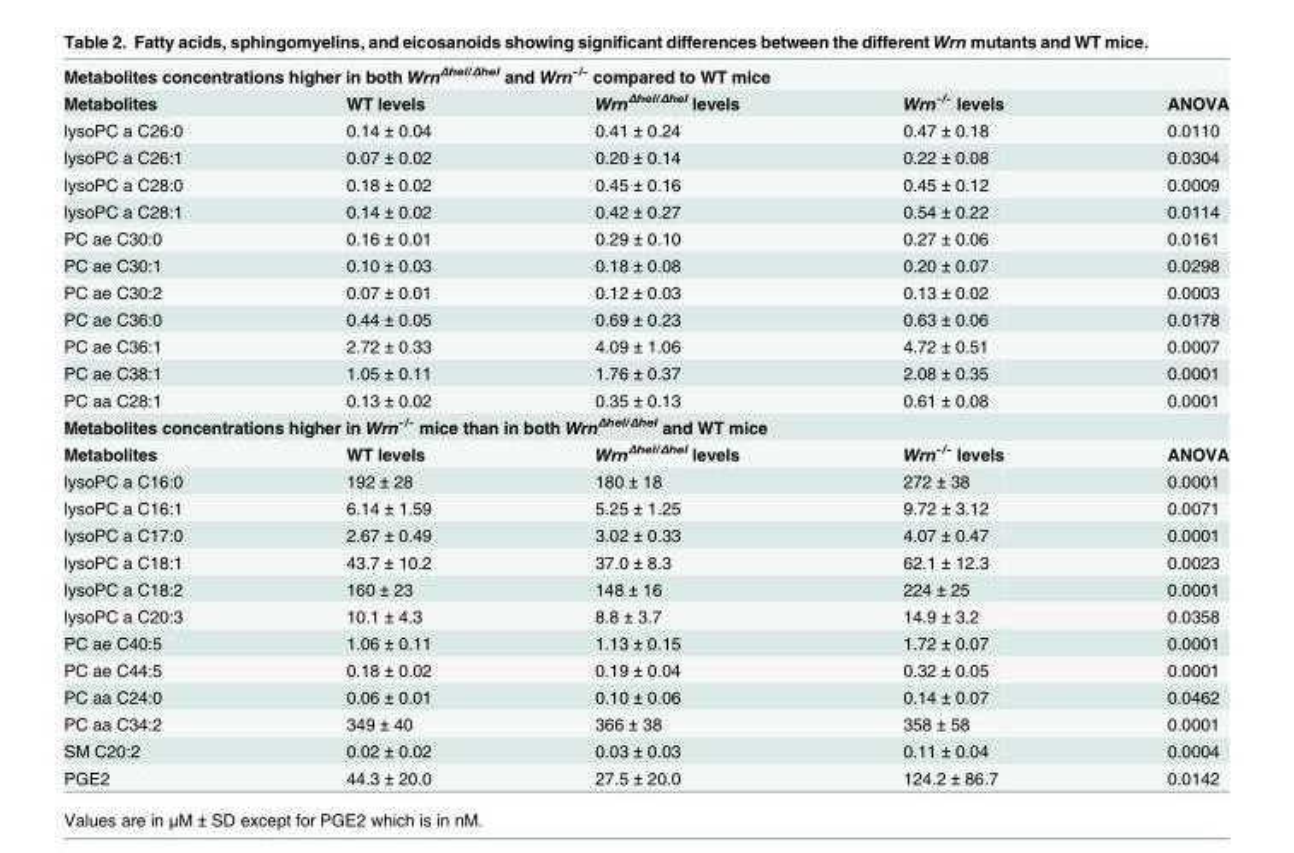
<table><tbody><tr><td colspan="5">Metabolites concentrations higher in both Wrn<sup>Δhel/Δhel</sup> and Wrn<sup>-/-</sup> compared to WT mice</td></tr><tr><td>Metabolites</td><td>WT levels</td><td>Wrn<sup>Δhel/Δhel</sup> levels</td><td>Wrn<sup>-/-</sup> levels</td><td>ANOVA</td></tr><tr><td>lysoPC a C26:0</td><td>0.14 ± 0.04</td><td>0.41 ± 0.24</td><td>0.47 ± 0.18</td><td>0.0110</td></tr><tr><td>lysoPC a C26:1</td><td>0.07 ± 0.02</td><td>0.20 ± 0.14</td><td>0.22 ± 0.08</td><td>0.0304</td></tr><tr><td>lysoPC a C28:0</td><td>0.18 ± 0.02</td><td>0.45 ± 0.16</td><td>0.45 ± 0.12</td><td>0.0009</td></tr><tr><td>lysoPC a C28:1</td><td>0.14 ± 0.02</td><td>0.42 ± 0.27</td><td>0.54 ± 0.22</td><td>0.0114</td></tr><tr><td>PC ae C30:0</td><td>0.16 ± 0.01</td><td>0.29 ± 0.10</td><td>0.27 ± 0.06</td><td>0.0161</td></tr><tr><td>PC ae C30:1</td><td>0.10 ± 0.03</td><td>0.18 ± 0.08</td><td>0.20 ± 0.07</td><td>0.0298</td></tr><tr><td>PC ae C30:2</td><td>0.07 ± 0.01</td><td>0.12 ± 0.03</td><td>0.13 ± 0.02</td><td>0.0003</td></tr><tr><td>PC ae C36:0</td><td>0.44 ± 0.05</td><td>0.69 ± 0.23</td><td>0.63 ± 0.06</td><td>0.0178</td></tr><tr><td>PC ae C36:1</td><td>2.72 ± 0.33</td><td>4.09 ± 1.06</td><td>4.72 ± 0.51</td><td>0.0007</td></tr><tr><td>PC ae C38:1</td><td>1.05 ± 0.11</td><td>1.76 ± 0.37</td><td>2.08 ± 0.35</td><td>0.0001</td></tr><tr><td>PC aa C28:1</td><td>0.13 ± 0.02</td><td>0.35 ± 0.13</td><td>0.61 ± 0.08</td><td>0.0001</td></tr><tr><td colspan="5">Metabolites concentrations higher in Wrn<sup>-/-</sup> mice than in both Wrn<sup>Δhel/Δhel</sup> and WT mice</td></tr><tr><td>Metabolites</td><td>WT levels</td><td>Wrn<sup>Δhel/Δhel</sup> levels</td><td>Wrn<sup>-/-</sup> levels</td><td>ANOVA</td></tr><tr><td>lysoPC a C16:0</td><td>192 ± 28</td><td>180 ± 18</td><td>272 ± 38</td><td>0.0001</td></tr><tr><td>lysoPC a C16:1</td><td>6.14 ± 1.59</td><td>5.25 ± 1.25</td><td>9.72 ± 3.12</td><td>0.0071</td></tr><tr><td>lysoPC a C17:0</td><td>2.67 ± 0.49</td><td>3.02 ± 0.33</td><td>4.07 ± 0.47</td><td>0.0001</td></tr><tr><td>lysoPC a C18:1</td><td>43.7 ± 10.2</td><td>37.0 ± 8.3</td><td>62.1 ± 12.3</td><td>0.0023</td></tr><tr><td>lysoPC a C18:2</td><td>160 ± 23</td><td>148 ± 16</td><td>224 ± 25</td><td>0.0001</td></tr><tr><td>lysoPC a C20:3</td><td>10.1 ± 4.3</td><td>8.8 ± 3.7</td><td>14.9 ± 3.2</td><td>0.0358</td></tr><tr><td>PC ae C40:5</td><td>1.06 ± 0.11</td><td>1.13 ± 0.15</td><td>1.72 ± 0.07</td><td>0.0001</td></tr><tr><td>PC ae C44:5</td><td>0.18 ± 0.02</td><td>0.19 ± 0.04</td><td>0.32 ± 0.05</td><td>0.0001</td></tr><tr><td>PC aa C24:0</td><td>0.06 ± 0.01</td><td>0.10 ± 0.06</td><td>0.14 ± 0.07</td><td>0.0462</td></tr><tr><td>PC aa C34:2</td><td>349 ± 40</td><td>366 ± 38</td><td>358 ± 58</td><td>0.0001</td></tr><tr><td>SM C20:2</td><td>0.02 ± 0.02</td><td>0.03 ± 0.03</td><td>0.11 ± 0.04</td><td>0.0004</td></tr><tr><td>PGE2</td><td>44.3 ± 20.0</td><td>27.5 ± 20.0</td><td>124.2 ± 86.7</td><td>0.0142</td></tr></tbody></table>